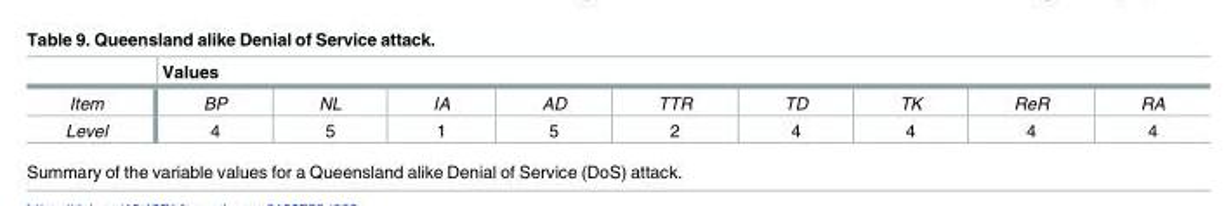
<table><thead><tr><td rowspan="2">Item</td><td colspan="9">Values</td></tr><tr><td>BP</td><td>NL</td><td>IA</td><td>AD</td><td>TTR</td><td>TD</td><td>TK</td><td>ReR</td><td>RA</td></tr></thead><tbody><tr><td>Level</td><td>4</td><td>5</td><td>1</td><td>5</td><td>2</td><td>4</td><td>4</td><td>4</td><td>4</td></tr></tbody></table>